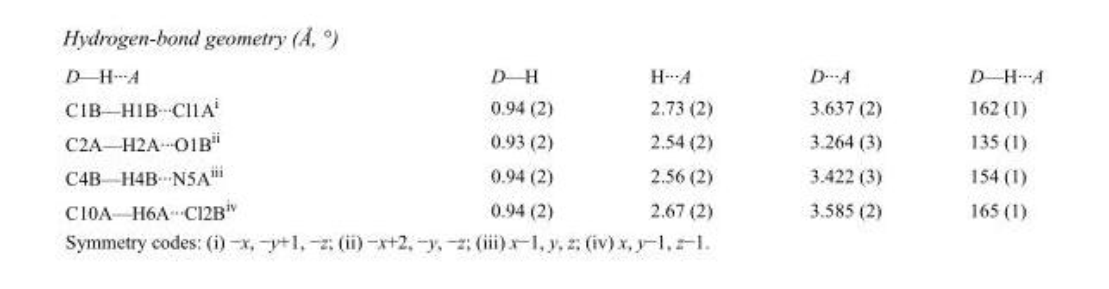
<table><tbody><tr><td>D—H···A</td><td>D—H</td><td>H···A</td><td>D···A</td><td>D—H···A</td></tr><tr><td>C1B—H1B···Cl1A<sup>i</sup></td><td>0.94 (2)</td><td>2.73 (2)</td><td>3.637 (2)</td><td>162 (1)</td></tr><tr><td>C2A—H2A···O1B<sup>ii</sup></td><td>0.93 (2)</td><td>2.54 (2)</td><td>3.264 (3)</td><td>135 (1)</td></tr><tr><td>C4B—H4B···N5A<sup>iii</sup></td><td>0.94 (2)</td><td>2.56 (2)</td><td>3.422 (3)</td><td>154 (1)</td></tr><tr><td>C10A—H6A···Cl2B<sup>iv</sup></td><td>0.94 (2)</td><td>2.67 (2)</td><td>3.585 (2)</td><td>165 (1)</td></tr></tbody></table>